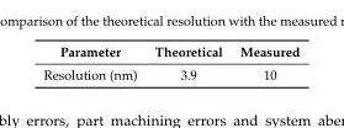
<table><thead><tr><td>Parameter</td><td>Theoretical</td><td>Measured</td></tr></thead><tbody><tr><td>Resolution (nm)</td><td>3.9</td><td>10</td></tr></tbody></table>